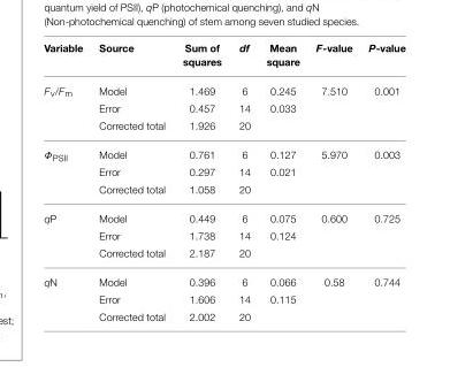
<table><thead><tr><td>Variable</td><td>Source</td><td>Sum of squares</td><td>df</td><td>Mean square</td><td>F-value</td><td>P-value</td></tr></thead><tbody><tr><td rowspan="3">F<sub>v</sub>/F<sub>m</sub></td><td>Model</td><td>1.469</td><td>6</td><td>0.245</td><td>7.510</td><td>0.001</td></tr><tr><td>Error</td><td>0.457</td><td>14</td><td>0.033</td><td></td><td></td></tr><tr><td>Corrected total</td><td>1.926</td><td>20</td><td></td><td></td><td></td></tr><tr><td rowspan="3">Φ<sub>PSII</sub></td><td>Model</td><td>0.761</td><td>6</td><td>0.127</td><td>5.970</td><td>0.003</td></tr><tr><td>Error</td><td>0.297</td><td>14</td><td>0.021</td><td></td><td></td></tr><tr><td>Corrected total</td><td>1.058</td><td>20</td><td></td><td></td><td></td></tr><tr><td rowspan="3">qP</td><td>Model</td><td>0.449</td><td>6</td><td>0.075</td><td>0.600</td><td>0.725</td></tr><tr><td>Error</td><td>1.738</td><td>14</td><td>0.124</td><td></td><td></td></tr><tr><td>Corrected total</td><td>2.187</td><td>20</td><td></td><td></td><td></td></tr><tr><td rowspan="3">qN</td><td>Model</td><td>0.396</td><td>6</td><td>0.066</td><td>0.58</td><td>0.744</td></tr><tr><td>Error</td><td>1.606</td><td>14</td><td>0.115</td><td></td><td></td></tr><tr><td>Corrected total</td><td>2.002</td><td>20</td><td></td><td></td><td></td></tr></tbody></table>